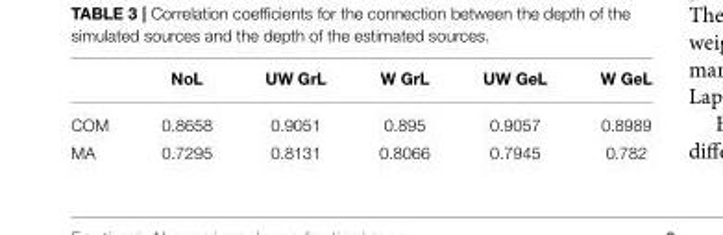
<table><thead><tr><td></td><td>NoL</td><td>UW GrL</td><td>W GrL</td><td>UW GeL</td><td>W GeL</td></tr></thead><tbody><tr><td>COM</td><td>0.8658</td><td>0.9051</td><td>0.895</td><td>0.9057</td><td>0.8989</td></tr><tr><td>MA</td><td>0.7295</td><td>0.8131</td><td>0.8066</td><td>0.7945</td><td>0.782</td></tr></tbody></table>